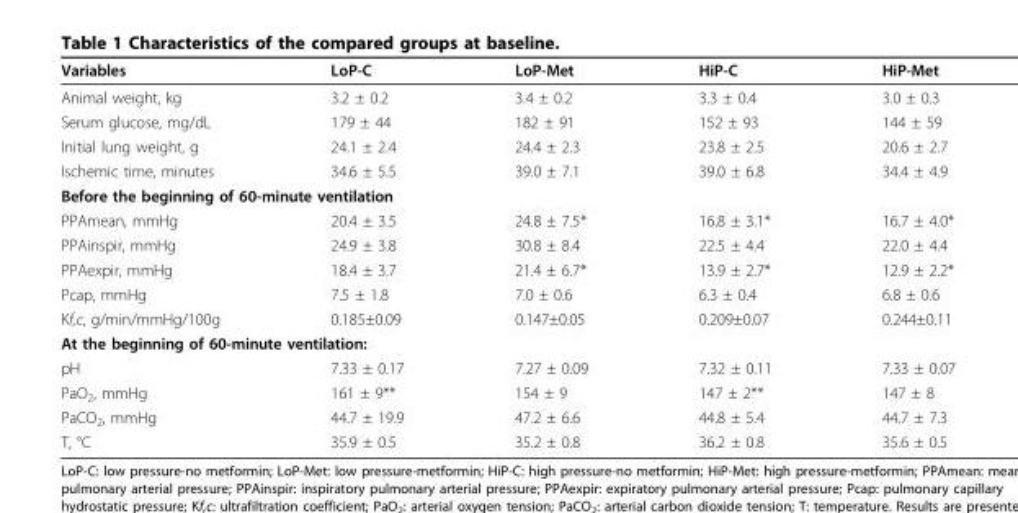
<table><thead><tr><td>Variables</td><td>LoP-C</td><td>LoP-Met</td><td>HiP-C</td><td>HiP-Met</td></tr></thead><tbody><tr><td>Animal weight, kg</td><td>3.2 ± 0.2</td><td>3.4 ± 0.2</td><td>3.3 ± 0.4</td><td>3.0 ± 0.3</td></tr><tr><td>Serum glucose, mg/dL</td><td>179 ± 44</td><td>182 ± 91</td><td>152 ± 93</td><td>144 ± 59</td></tr><tr><td>Initial lung weight, g</td><td>24.1 ± 2.4</td><td>24.4 ± 2.3</td><td>23.8 ± 2.5</td><td>20.6 ± 2.7</td></tr><tr><td>Ischemic time, minutes</td><td>34.6 ± 5.5</td><td>39.0 ± 7.1</td><td>39.0 ± 6.8</td><td>34.4 ± 4.9</td></tr><tr><td colspan="5">Before the beginning of 60-minute ventilation</td></tr><tr><td>PPAmean, mmHg</td><td>20.4 ± 3.5</td><td>24.8 ± 7.5*</td><td>16.8 ± 3.1*</td><td>16.7 ± 4.0*</td></tr><tr><td>PPAinspir, mmHg</td><td>24.9 ± 3.8</td><td>30.8 ± 8.4</td><td>22.5 ± 4.4</td><td>22.0 ± 4.4</td></tr><tr><td>PPAexpir, mmHg</td><td>18.4 ± 3.7</td><td>21.4 ± 6.7*</td><td>13.9 ± 2.7*</td><td>12.9 ± 2.2*</td></tr><tr><td>Pcap, mmHg</td><td>7.5 ± 1.8</td><td>7.0 ± 0.6</td><td>6.3 ± 0.4</td><td>6.8 ± 0.6</td></tr><tr><td>Kf,c, g/min/mmHg/100g</td><td>0.185±0.09</td><td>0.147±0.05</td><td>0.209±0.07</td><td>0.244±0.11</td></tr><tr><td colspan="5">At the beginning of 60-minute ventilation:</td></tr><tr><td>pH</td><td>7.33 ± 0.17</td><td>7.27 ± 0.09</td><td>7.32 ± 0.11</td><td>7.33 ± 0.07</td></tr><tr><td>PaO<sub>2</sub>, mmHg</td><td>161 ± 9**</td><td>154 ± 9</td><td>147 ± 2**</td><td>147 ± 8</td></tr><tr><td>PaCO<sub>2</sub>, mmHg</td><td>44.7 ± 19.9</td><td>47.2 ± 6.6</td><td>44.8 ± 5.4</td><td>44.7 ± 7.3</td></tr><tr><td>T, °C</td><td>35.9 ± 0.5</td><td>35.2 ± 0.8</td><td>36.2 ± 0.8</td><td>35.6 ± 0.5</td></tr></tbody></table>